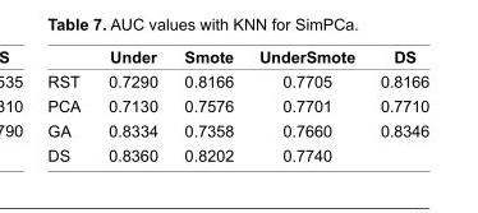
<table><thead><tr><td></td><td>Under</td><td>Smote</td><td>UnderSmote</td><td>DS</td></tr></thead><tbody><tr><td>RST</td><td>0.7290</td><td>0.8166</td><td>0.7705</td><td>0.8166</td></tr><tr><td>PCA</td><td>0.7130</td><td>0.7576</td><td>0.7701</td><td>0.7710</td></tr><tr><td>GA</td><td>0.8334</td><td>0.7358</td><td>0.7660</td><td>0.8346</td></tr><tr><td>DS</td><td>0.8360</td><td>0.8202</td><td>0.7740</td><td></td></tr></tbody></table>